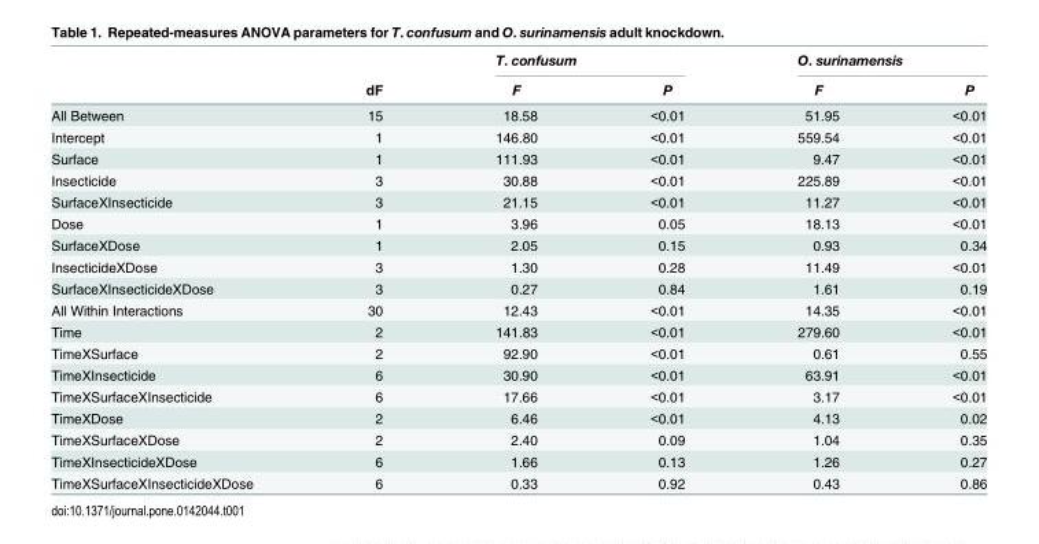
<table><thead><tr><td rowspan="2"></td><td rowspan="2">dF</td><td colspan="2">T. confusum</td><td colspan="2">O. surinamensis</td></tr><tr><td>F</td><td>P</td><td>F</td><td>P</td></tr></thead><tbody><tr><td>All Between</td><td>15</td><td>18.58</td><td>&lt;0.01</td><td>51.95</td><td>&lt;0.01</td></tr><tr><td>Intercept</td><td>1</td><td>146.80</td><td>&lt;0.01</td><td>559.54</td><td>&lt;0.01</td></tr><tr><td>Surface</td><td>1</td><td>111.93</td><td>&lt;0.01</td><td>9.47</td><td>&lt;0.01</td></tr><tr><td>Insecticide</td><td>3</td><td>30.88</td><td>&lt;0.01</td><td>225.89</td><td>&lt;0.01</td></tr><tr><td>SurfaceXInsecticide</td><td>3</td><td>21.15</td><td>&lt;0.01</td><td>11.27</td><td>&lt;0.01</td></tr><tr><td>Dose</td><td>1</td><td>3.96</td><td>0.05</td><td>18.13</td><td>&lt;0.01</td></tr><tr><td>SurfaceXDose</td><td>1</td><td>2.05</td><td>0.15</td><td>0.93</td><td>0.34</td></tr><tr><td>InsecticideXDose</td><td>3</td><td>1.30</td><td>0.28</td><td>11.49</td><td>&lt;0.01</td></tr><tr><td>SurfaceXInsecticideXDose</td><td>3</td><td>0.27</td><td>0.84</td><td>1.61</td><td>0.19</td></tr><tr><td>All Within Interactions</td><td>30</td><td>12.43</td><td>&lt;0.01</td><td>14.35</td><td>&lt;0.01</td></tr><tr><td>Time</td><td>2</td><td>141.83</td><td>&lt;0.01</td><td>279.60</td><td>&lt;0.01</td></tr><tr><td>TimeXSurface</td><td>2</td><td>92.90</td><td>&lt;0.01</td><td>0.61</td><td>0.55</td></tr><tr><td>TimeXInsecticide</td><td>6</td><td>30.90</td><td>&lt;0.01</td><td>63.91</td><td>&lt;0.01</td></tr><tr><td>TimeXSurfaceXInsecticide</td><td>6</td><td>17.66</td><td>&lt;0.01</td><td>3.17</td><td>&lt;0.01</td></tr><tr><td>TimeXDose</td><td>2</td><td>6.46</td><td>&lt;0.01</td><td>4.13</td><td>0.02</td></tr><tr><td>TimeXSurfaceXDose</td><td>2</td><td>2.40</td><td>0.09</td><td>1.04</td><td>0.35</td></tr><tr><td>TimeXInsecticideXDose</td><td>6</td><td>1.66</td><td>0.13</td><td>1.26</td><td>0.27</td></tr><tr><td>TimeXSurfaceXInsecticideXDose</td><td>6</td><td>0.33</td><td>0.92</td><td>0.43</td><td>0.86</td></tr></tbody></table>